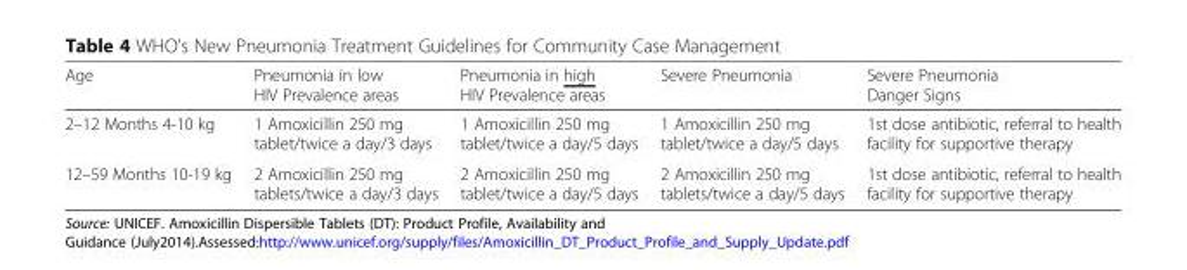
<table><thead><tr><td>Age</td><td>Pneumonia in low HIV Prevalence areas</td><td>Pneumonia in high HIV Prevalence areas</td><td>Severe Pneumonia</td><td>Severe Pneumonia Danger Signs</td></tr></thead><tbody><tr><td>2–12 Months 4-10 kg</td><td>1 Amoxicillin 250 mg tablet/twice a day/3 days</td><td>1 Amoxicillin 250 mg tablet/twice a day/5 days</td><td>1 Amoxicillin 250 mg tablet/twice a day/5 days</td><td>1st dose antibiotic, referral to health facility for supportive therapy</td></tr><tr><td>12–59 Months 10-19 kg</td><td>2 Amoxicillin 250 mg tablets/twice a day/3 days</td><td>2 Amoxicillin 250 mg tablet/twice a day/5 days</td><td>2 Amoxicillin 250 mg tablets/twice a day/5 days</td><td>1st dose antibiotic, referral to health facility for supportive therapy</td></tr></tbody></table>